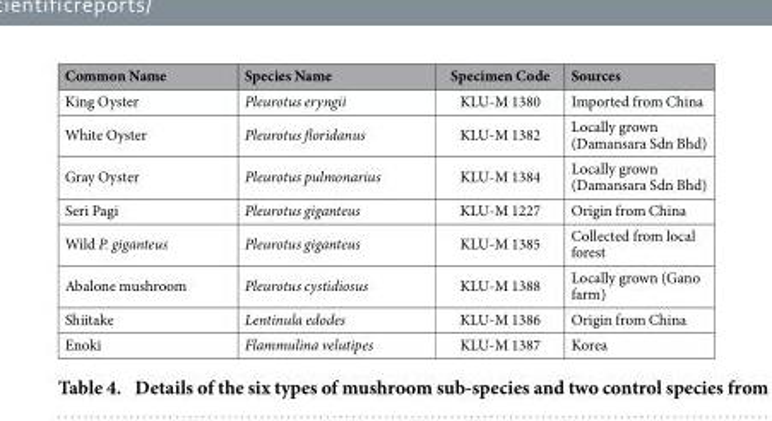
<table><thead><tr><td>Common Name</td><td>Species Name</td><td>Specimen Code</td><td>Sources</td></tr></thead><tbody><tr><td>King Oyster</td><td>Pleurotus eryngii</td><td>KLU-M 1380</td><td>Imported from China</td></tr><tr><td>White Oyster</td><td>Pleurotus floridanus</td><td>KLU-M 1382</td><td>Locally grown (Damansara Sdn Bhd)</td></tr><tr><td>Gray Oyster</td><td>Pleurotus pulmonarius</td><td>KLU-M 1384</td><td>Locally grown (Damansara Sdn Bhd)</td></tr><tr><td>Seri Pagi</td><td>Pleurotus giganteus</td><td>KLU-M 1227</td><td>Origin from China</td></tr><tr><td>Wild P. giganteus</td><td>Pleurotus giganteus</td><td>KLU-M 1385</td><td>Collected from local forest</td></tr><tr><td>Abalone mushroom</td><td>Pleurotus cystidiosus</td><td>KLU-M 1388</td><td>Locally grown (Gano farm)</td></tr><tr><td>Shiitake</td><td>Lentinula edodes</td><td>KLU-M 1386</td><td>Origin from China</td></tr><tr><td>Enoki</td><td>Flammulina velutipes</td><td>KLU-M 1387</td><td>Korea</td></tr></tbody></table>